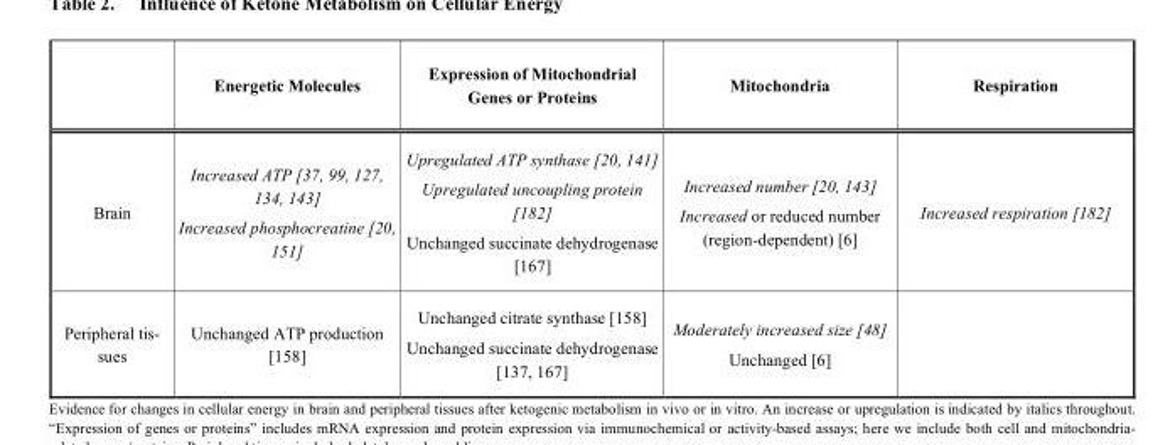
<table><thead><tr><td></td><td>Energetic Molecules</td><td>Expression of Mitochondrial Genes or Proteins</td><td>Mitochondria</td><td>Respiration</td></tr></thead><tbody><tr><td>Brain</td><td>Increased ATP [37, 99, 127, 134, 143] Increased phosphocreatine [20, 151]</td><td>Upregulated ATP synthase [20, 141] Upregulated uncoupling protein [182] Unchanged succinate dehydrogenase [167]</td><td>Increased number [20, 143] Increased or reduced number (region-dependent) [6]</td><td>Increased respiration [182]</td></tr><tr><td>Peripheral tis- sues</td><td>Unchanged ATP production [158]</td><td>Unchanged citrate synthase [158] Unchanged succinate dehydrogenase [137, 167]</td><td>Moderately increased size [48] Unchanged [6]</td><td></td></tr></tbody></table>